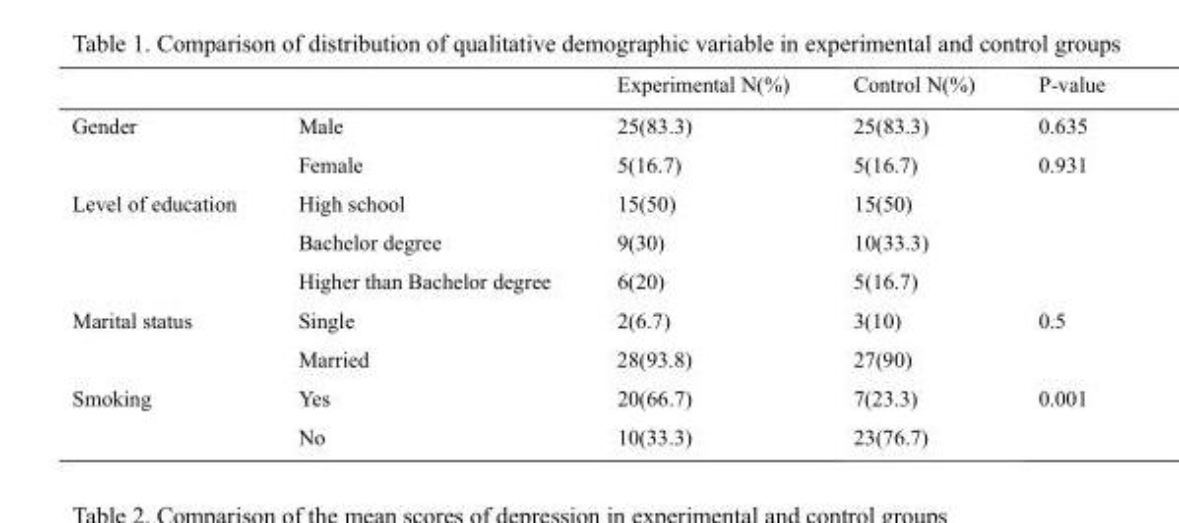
<table><thead><tr><td></td><td></td><td>Experimental N(%)</td><td>Control N(%)</td><td>P-value</td></tr></thead><tbody><tr><td rowspan="2">Gender</td><td>Male</td><td>25(83.3)</td><td>25(83.3)</td><td>0.635</td></tr><tr><td>Female</td><td>5(16.7)</td><td>5(16.7)</td><td>0.931</td></tr><tr><td rowspan="3">Level of education</td><td>High school</td><td>15(50)</td><td>15(50)</td><td></td></tr><tr><td>Bachelor degree</td><td>9(30)</td><td>10(33.3)</td><td></td></tr><tr><td>Higher than Bachelor degree</td><td>6(20)</td><td>5(16.7)</td><td></td></tr><tr><td rowspan="2">Marital status</td><td>Single</td><td>2(6.7)</td><td>3(10)</td><td>0.5</td></tr><tr><td>Married</td><td>28(93.8)</td><td>27(90)</td><td></td></tr><tr><td rowspan="2">Smoking</td><td>Yes</td><td>20(66.7)</td><td>7(23.3)</td><td>0.001</td></tr><tr><td>No</td><td>10(33.3)</td><td>23(76.7)</td><td></td></tr></tbody></table>